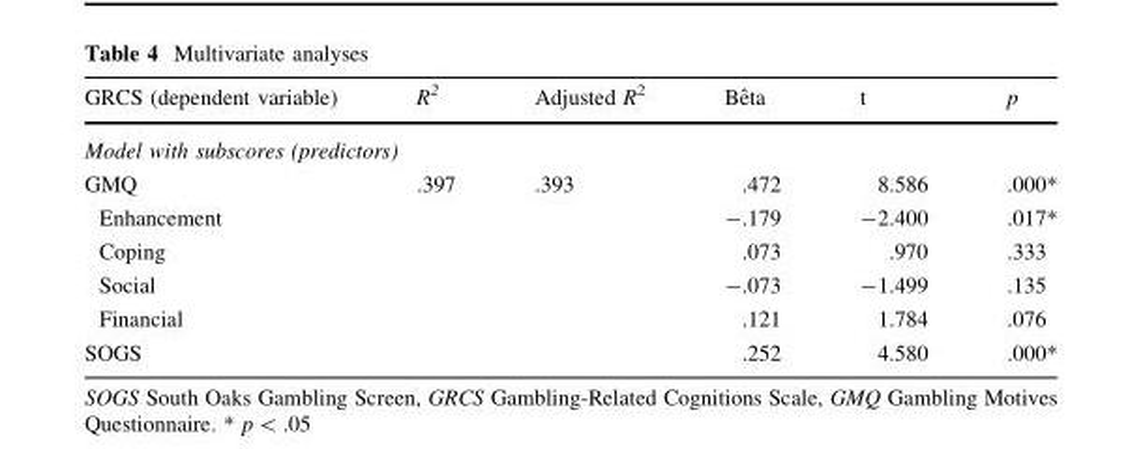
<table><thead><tr><td>GRCS (dependent variable)</td><td>R<sup>2</sup></td><td>Adjusted R<sup>2</sup></td><td>Beˆta</td><td>t</td><td>p</td></tr></thead><tbody><tr><td colspan="6">Model with subscores (predictors)</td></tr><tr><td>GMQ</td><td>.397</td><td>.393</td><td>.472</td><td>8.586</td><td>.000*</td></tr><tr><td>Enhancement</td><td></td><td></td><td>-.179</td><td>-2.400</td><td>.017*</td></tr><tr><td>Coping</td><td></td><td></td><td>.073</td><td>.970</td><td>.333</td></tr><tr><td>Social</td><td></td><td></td><td>-.073</td><td>-1.499</td><td>.135</td></tr><tr><td>Financial</td><td></td><td></td><td>.121</td><td>1.784</td><td>.076</td></tr><tr><td>SOGS</td><td></td><td></td><td>.252</td><td>4.580</td><td>.000*</td></tr></tbody></table>